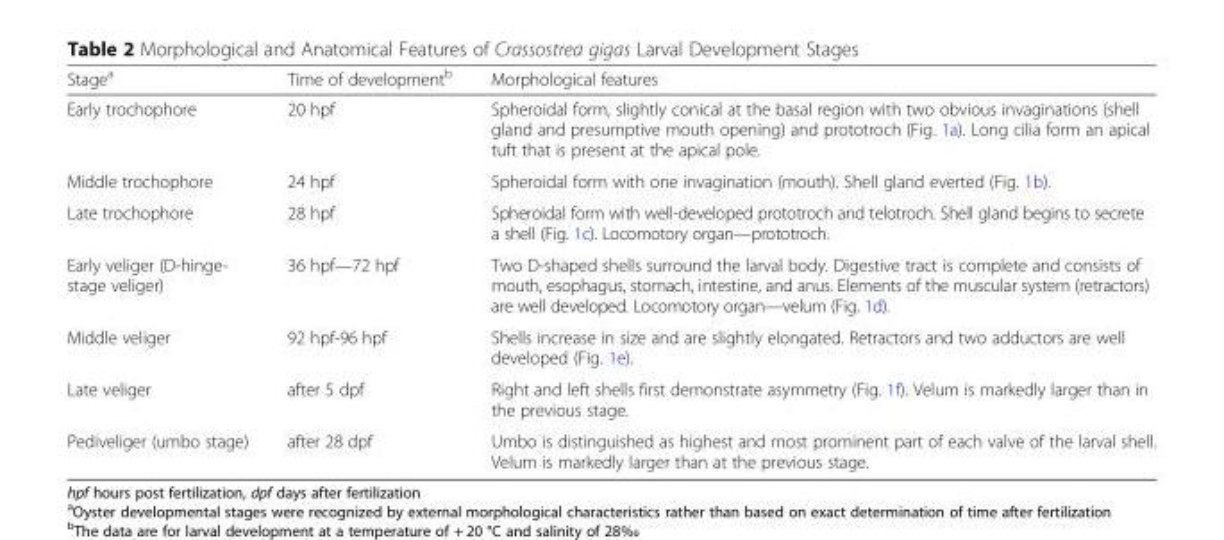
<table><thead><tr><td>Stage<sup>a</sup></td><td>Time of development<sup>b</sup></td><td>Morphological features</td></tr></thead><tbody><tr><td>Early trochophore</td><td>20 hpf</td><td>Spheroidal form, slightly conical at the basal region with two obvious invaginations (shell gland and presumptive mouth opening) and prototroch (Fig. 1a). Long cilia form an apical tuft that is present at the apical pole.</td></tr><tr><td>Middle trochophore</td><td>24 hpf</td><td>Spheroidal form with one invagination (mouth). Shell gland everted (Fig. 1b).</td></tr><tr><td>Late trochophore</td><td>28 hpf</td><td>Spheroidal form with well-developed prototroch and telotroch. Shell gland begins to secrete a shell (Fig. 1c). Locomotory organ—prototroch.</td></tr><tr><td>Early veliger (D-hinge- stage veliger)</td><td>36 hpf—72 hpf</td><td>Two D-shaped shells surround the larval body. Digestive tract is complete and consists of mouth, esophagus, stomach, intestine, and anus. Elements of the muscular system (retractors) are well developed. Locomotory organ—velum (Fig. 1d).</td></tr><tr><td>Middle veliger</td><td>92 hpf-96 hpf</td><td>Shells increase in size and are slightly elongated. Retractors and two adductors are well developed (Fig. 1e).</td></tr><tr><td>Late veliger</td><td>after 5 dpf</td><td>Right and left shells first demonstrate asymmetry (Fig. 1f). Velum is markedly larger than in the previous stage.</td></tr><tr><td>Pediveliger (umbo stage)</td><td>after 28 dpf</td><td>Umbo is distinguished as highest and most prominent part of each valve of the larval shell. Velum is markedly larger than at the previous stage.</td></tr></tbody></table>